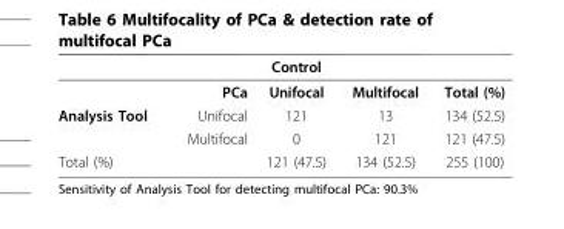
<table><thead><tr><td></td><td></td><td>Control</td><td></td><td></td></tr></thead><tbody><tr><td></td><td>PCa</td><td>Unifocal</td><td>Multifocal</td><td>Total (%)</td></tr><tr><td rowspan="2">Analysis Tool</td><td>Unifocal</td><td>121</td><td>13</td><td>134 (52.5)</td></tr><tr><td>Multifocal</td><td>0</td><td>121</td><td>121 (47.5)</td></tr><tr><td>Total (%)</td><td></td><td>121 (47.5)</td><td>134 (52.5)</td><td>255 (100)</td></tr></tbody></table>